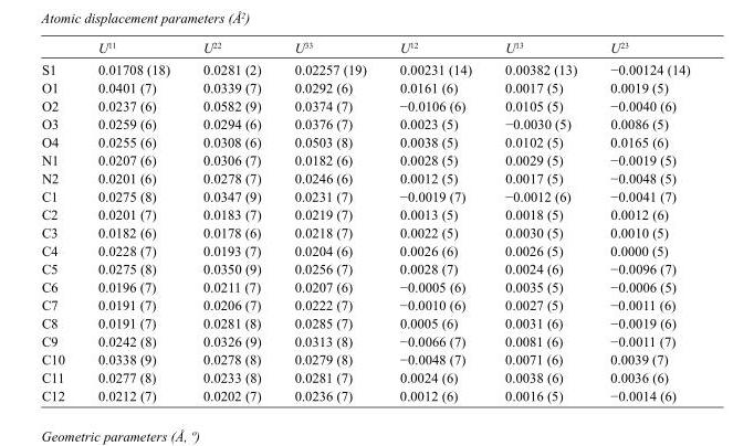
<table><thead><tr><td></td><td>U<sup>11</sup></td><td>U<sup>22</sup></td><td>U<sup>33</sup></td><td>U<sup>12</sup></td><td>U<sup>13</sup></td><td>U<sup>23</sup></td></tr></thead><tbody><tr><td>S1</td><td>0.01708 (18)</td><td>0.0281 (2)</td><td>0.02257 (19)</td><td>0.00231 (14)</td><td>0.00382 (13)</td><td>−0.00124 (14)</td></tr><tr><td>O1</td><td>0.0401 (7)</td><td>0.0339 (7)</td><td>0.0292 (6)</td><td>0.0161 (6)</td><td>0.0017 (5)</td><td>0.0019 (5)</td></tr><tr><td>O2</td><td>0.0237 (6)</td><td>0.0582 (9)</td><td>0.0374 (7)</td><td>−0.0106 (6)</td><td>0.0105 (5)</td><td>−0.0040 (6)</td></tr><tr><td>O3</td><td>0.0259 (6)</td><td>0.0294 (6)</td><td>0.0376 (7)</td><td>0.0023 (5)</td><td>−0.0030 (5)</td><td>0.0086 (5)</td></tr><tr><td>O4</td><td>0.0255 (6)</td><td>0.0308 (6)</td><td>0.0503 (8)</td><td>0.0038 (5)</td><td>0.0102 (5)</td><td>0.0165 (6)</td></tr><tr><td>N1</td><td>0.0207 (6)</td><td>0.0306 (7)</td><td>0.0182 (6)</td><td>0.0028 (5)</td><td>0.0029 (5)</td><td>−0.0019 (5)</td></tr><tr><td>N2</td><td>0.0201 (6)</td><td>0.0278 (7)</td><td>0.0246 (6)</td><td>0.0012 (5)</td><td>0.0017 (5)</td><td>−0.0048 (5)</td></tr><tr><td>C1</td><td>0.0275 (8)</td><td>0.0347 (9)</td><td>0.0231 (7)</td><td>−0.0019 (7)</td><td>−0.0012 (6)</td><td>−0.0041 (7)</td></tr><tr><td>C2</td><td>0.0201 (7)</td><td>0.0183 (7)</td><td>0.0219 (7)</td><td>0.0013 (5)</td><td>0.0018 (5)</td><td>0.0012 (6)</td></tr><tr><td>C3</td><td>0.0182 (6)</td><td>0.0178 (6)</td><td>0.0218 (7)</td><td>0.0022 (5)</td><td>0.0030 (5)</td><td>0.0010 (5)</td></tr><tr><td>C4</td><td>0.0228 (7)</td><td>0.0193 (7)</td><td>0.0204 (6)</td><td>0.0026 (6)</td><td>0.0026 (5)</td><td>0.0000 (5)</td></tr><tr><td>C5</td><td>0.0275 (8)</td><td>0.0350 (9)</td><td>0.0256 (7)</td><td>0.0028 (7)</td><td>0.0024 (6)</td><td>−0.0096 (7)</td></tr><tr><td>C6</td><td>0.0196 (7)</td><td>0.0211 (7)</td><td>0.0207 (6)</td><td>−0.0005 (6)</td><td>0.0035 (5)</td><td>−0.0006 (5)</td></tr><tr><td>C7</td><td>0.0191 (7)</td><td>0.0206 (7)</td><td>0.0222 (7)</td><td>−0.0010 (6)</td><td>0.0027 (5)</td><td>−0.0011 (6)</td></tr><tr><td>C8</td><td>0.0191 (7)</td><td>0.0281 (8)</td><td>0.0285 (7)</td><td>0.0005 (6)</td><td>0.0031 (6)</td><td>−0.0019 (6)</td></tr><tr><td>C9</td><td>0.0242 (8)</td><td>0.0326 (9)</td><td>0.0313 (8)</td><td>−0.0066 (7)</td><td>0.0081 (6)</td><td>−0.0011 (7)</td></tr><tr><td>C10</td><td>0.0338 (9)</td><td>0.0278 (8)</td><td>0.0279 (8)</td><td>−0.0048 (7)</td><td>0.0071 (6)</td><td>0.0039 (7)</td></tr><tr><td>C11</td><td>0.0277 (8)</td><td>0.0233 (8)</td><td>0.0281 (7)</td><td>0.0024 (6)</td><td>0.0038 (6)</td><td>0.0036 (6)</td></tr><tr><td>C12</td><td>0.0212 (7)</td><td>0.0202 (7)</td><td>0.0236 (7)</td><td>0.0012 (6)</td><td>0.0016 (5)</td><td>−0.0014 (6)</td></tr></tbody></table>